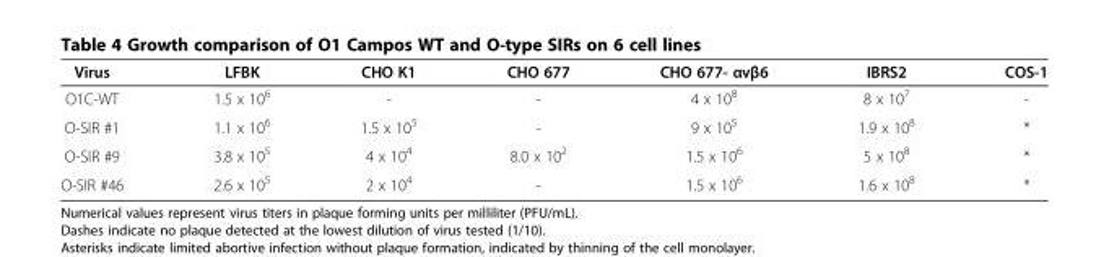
<table><thead><tr><td>Virus</td><td>LFBK</td><td>CHO K1</td><td>CHO 677</td><td>CHO 677- αvβ6</td><td>IBRS2</td><td>COS-1</td></tr></thead><tbody><tr><td>O1C-WT</td><td>1.5 x 10<sup>6</sup></td><td>-</td><td>-</td><td>4 x 10<sup>8</sup></td><td>8 x 10<sup>7</sup></td><td>-</td></tr><tr><td>O-SIR #1</td><td>1.1 x 10<sup>6</sup></td><td>1.5 x 10<sup>5</sup></td><td>-</td><td>9 x 10<sup>5</sup></td><td>1.9 x 10<sup>8</sup></td><td>*</td></tr><tr><td>O-SIR #9</td><td>3.8 x 10<sup>5</sup></td><td>4 x 10<sup>4</sup></td><td>8.0 x 10<sup>2</sup></td><td>1.5 x 10<sup>6</sup></td><td>5 x 10<sup>8</sup></td><td>*</td></tr><tr><td>O-SIR #46</td><td>2.6 x 10<sup>5</sup></td><td>2 x 10<sup>4</sup></td><td>-</td><td>1.5 x 10<sup>6</sup></td><td>1.6 x 10<sup>8</sup></td><td>*</td></tr></tbody></table>